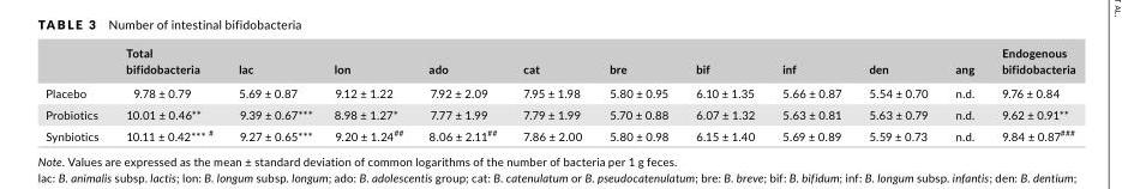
<table><thead><tr><td></td><td>Total bifidobacteria</td><td>lac</td><td>lon</td><td>ado</td><td>cat</td><td>bre</td><td>bif</td><td>inf</td><td>den</td><td>ang</td><td>Endogenous bifidobacteria</td></tr></thead><tbody><tr><td>Placebo</td><td>9.78 ± 0.79</td><td>5.69 ± 0.87</td><td>9.12 ± 1.22</td><td>7.92 ± 2.09</td><td>7.95 ± 1.98</td><td>5.80 ± 0.95</td><td>6.10 ± 1.35</td><td>5.66 ± 0.87</td><td>5.54 ± 0.70</td><td>n.d.</td><td>9.76 ± 0.84</td></tr><tr><td>Probiotics</td><td>10.01 ± 0.46**</td><td>9.39 ± 0.67***</td><td>8.98 ± 1.27*</td><td>7.77 ± 1.99</td><td>7.79 ± 1.99</td><td>5.70 ± 0.88</td><td>6.07 ± 1.32</td><td>5.63 ± 0.81</td><td>5.63 ± 0.79</td><td>n.d.</td><td>9.62 ± 0.91**</td></tr><tr><td>Synbiotics</td><td>10.11 ± 0.42*** #</td><td>9.27 ± 0.65***</td><td>9.20 ± 1.24##</td><td>8.06 ± 2.11##</td><td>7.86 ± 2.00</td><td>5.80 ± 0.98</td><td>6.15 ± 1.40</td><td>5.69 ± 0.89</td><td>5.59 ± 0.73</td><td>n.d.</td><td>9.84 ± 0.87###</td></tr></tbody></table>